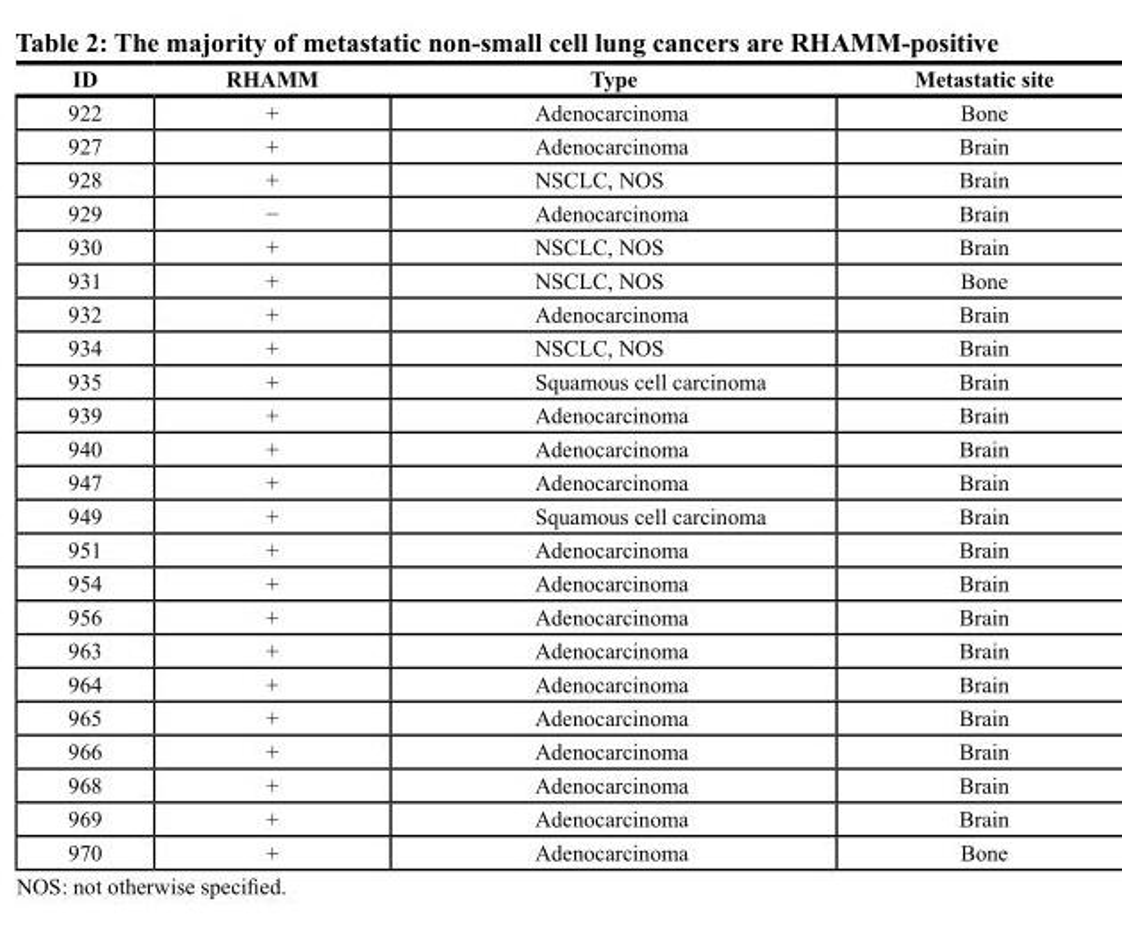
<table><thead><tr><td>Id</td><td>rHAMM</td><td>type</td><td>Metastatic site</td></tr></thead><tbody><tr><td>922</td><td>+</td><td>Adenocarcinoma</td><td>Bone</td></tr><tr><td>927</td><td>+</td><td>Adenocarcinoma</td><td>Brain</td></tr><tr><td>928</td><td>+</td><td>NSCLC, NOS</td><td>Brain</td></tr><tr><td>929</td><td>−</td><td>Adenocarcinoma</td><td>Brain</td></tr><tr><td>930</td><td>+</td><td>NSCLC, NOS</td><td>Brain</td></tr><tr><td>931</td><td>+</td><td>NSCLC, NOS</td><td>Bone</td></tr><tr><td>932</td><td>+</td><td>Adenocarcinoma</td><td>Brain</td></tr><tr><td>934</td><td>+</td><td>NSCLC, NOS</td><td>Brain</td></tr><tr><td>935</td><td>+</td><td>Squamous cell carcinoma</td><td>Brain</td></tr><tr><td>939</td><td>+</td><td>Adenocarcinoma</td><td>Brain</td></tr><tr><td>940</td><td>+</td><td>Adenocarcinoma</td><td>Brain</td></tr><tr><td>947</td><td>+</td><td>Adenocarcinoma</td><td>Brain</td></tr><tr><td>949</td><td>+</td><td>Squamous cell carcinoma</td><td>Brain</td></tr><tr><td>951</td><td>+</td><td>Adenocarcinoma</td><td>Brain</td></tr><tr><td>954</td><td>+</td><td>Adenocarcinoma</td><td>Brain</td></tr><tr><td>956</td><td>+</td><td>Adenocarcinoma</td><td>Brain</td></tr><tr><td>963</td><td>+</td><td>Adenocarcinoma</td><td>Brain</td></tr><tr><td>964</td><td>+</td><td>Adenocarcinoma</td><td>Brain</td></tr><tr><td>965</td><td>+</td><td>Adenocarcinoma</td><td>Brain</td></tr><tr><td>966</td><td>+</td><td>Adenocarcinoma</td><td>Brain</td></tr><tr><td>968</td><td>+</td><td>Adenocarcinoma</td><td>Brain</td></tr><tr><td>969</td><td>+</td><td>Adenocarcinoma</td><td>Brain</td></tr><tr><td>970</td><td>+</td><td>Adenocarcinoma</td><td>Bone</td></tr></tbody></table>